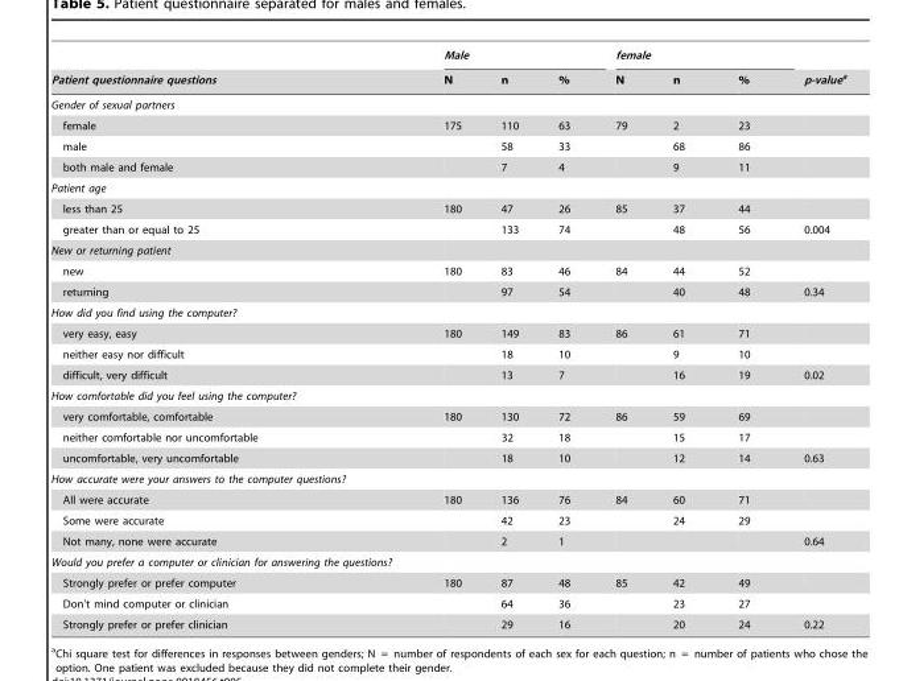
<table><thead><tr><td rowspan="2">Patient questionnaire questions</td><td colspan="3">Male</td><td colspan="3">female</td><td rowspan="2">p-valuea</td></tr><tr><td>N</td><td>n</td><td>%</td><td>N</td><td>n</td><td>%</td></tr></thead><tbody><tr><td colspan="8">Gender of sexual partners</td></tr><tr><td>female</td><td>175</td><td>110</td><td>63</td><td>79</td><td>2</td><td>23</td><td></td></tr><tr><td>male</td><td></td><td>58</td><td>33</td><td></td><td>68</td><td>86</td><td></td></tr><tr><td>both male and female</td><td></td><td>7</td><td>4</td><td></td><td>9</td><td>11</td><td></td></tr><tr><td colspan="8">Patient age</td></tr><tr><td>less than 25</td><td>180</td><td>47</td><td>26</td><td>85</td><td>37</td><td>44</td><td></td></tr><tr><td>greater than or equal to 25</td><td></td><td>133</td><td>74</td><td></td><td>48</td><td>56</td><td>0.004</td></tr><tr><td colspan="8">New or returning patient</td></tr><tr><td>new</td><td>180</td><td>83</td><td>46</td><td>84</td><td>44</td><td>52</td><td></td></tr><tr><td>returning</td><td></td><td>97</td><td>54</td><td></td><td>40</td><td>48</td><td>0.34</td></tr><tr><td colspan="8">How did you find using the computer?</td></tr><tr><td>very easy, easy</td><td>180</td><td>149</td><td>83</td><td>86</td><td>61</td><td>71</td><td></td></tr><tr><td>neither easy nor difficult</td><td></td><td>18</td><td>10</td><td></td><td>9</td><td>10</td><td></td></tr><tr><td>difficult, very difficult</td><td></td><td>13</td><td>7</td><td></td><td>16</td><td>19</td><td>0.02</td></tr><tr><td colspan="8">How comfortable did you feel using the computer?</td></tr><tr><td>very comfortable, comfortable</td><td>180</td><td>130</td><td>72</td><td>86</td><td>59</td><td>69</td><td></td></tr><tr><td>neither comfortable nor uncomfortable</td><td></td><td>32</td><td>18</td><td></td><td>15</td><td>17</td><td></td></tr><tr><td>uncomfortable, very uncomfortable</td><td></td><td>18</td><td>10</td><td></td><td>12</td><td>14</td><td>0.63</td></tr><tr><td colspan="8">How accurate were your answers to the computer questions?</td></tr><tr><td>All were accurate</td><td>180</td><td>136</td><td>76</td><td>84</td><td>60</td><td>71</td><td></td></tr><tr><td>Some were accurate</td><td></td><td>42</td><td>23</td><td></td><td>24</td><td>29</td><td></td></tr><tr><td>Not many, none were accurate</td><td></td><td>2</td><td>1</td><td></td><td></td><td></td><td>0.64</td></tr><tr><td colspan="8">Would you prefer a computer or clinician for answering the questions?</td></tr><tr><td>Strongly prefer or prefer computer</td><td>180</td><td>87</td><td>48</td><td>85</td><td>42</td><td>49</td><td></td></tr><tr><td>Don’t mind computer or clinician</td><td></td><td>64</td><td>36</td><td></td><td>23</td><td>27</td><td></td></tr><tr><td>Strongly prefer or prefer clinician</td><td></td><td>29</td><td>16</td><td></td><td>20</td><td>24</td><td>0.22</td></tr></tbody></table>